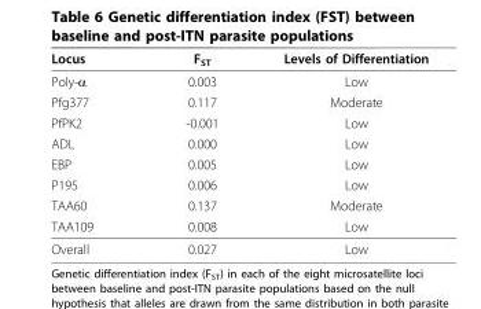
<table><thead><tr><td>Locus</td><td>F<sub>ST</sub></td><td>Levels of Differentiation</td></tr></thead><tbody><tr><td>Poly-α</td><td>0.003</td><td>Low</td></tr><tr><td>Pfg377</td><td>0.117</td><td>Moderate</td></tr><tr><td>PfPK2</td><td>-0.001</td><td>Low</td></tr><tr><td>ADL</td><td>0.000</td><td>Low</td></tr><tr><td>EBP</td><td>0.005</td><td>Low</td></tr><tr><td>P195</td><td>0.006</td><td>Low</td></tr><tr><td>TAA60</td><td>0.137</td><td>Moderate</td></tr><tr><td>TAA109</td><td>0.008</td><td>Low</td></tr><tr><td>Overall</td><td>0.027</td><td>Low</td></tr></tbody></table>